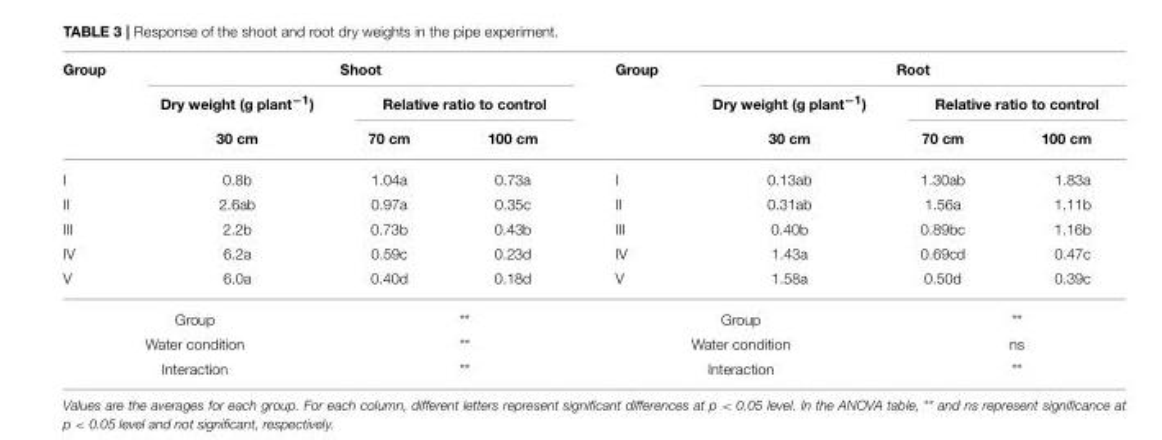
<table><thead><tr><td rowspan="3">Group</td><td colspan="3">Shoot</td><td rowspan="3">Group</td><td colspan="3">Root</td></tr><tr><td rowspan="2">Dry weight (g plant<sup>−1</sup>) 30 cm</td><td colspan="2">Relative ratio to control</td><td rowspan="2">Dry weight (g plant<sup>−1</sup>) 30 cm</td><td colspan="2">Relative ratio to control</td></tr><tr><td>70 cm</td><td>100 cm</td><td>70 cm</td><td>100 cm</td></tr></thead><tbody><tr><td>I</td><td>0.8b</td><td>1.04a</td><td>0.73a</td><td>I</td><td>0.13ab</td><td>1.30ab</td><td>1.83a</td></tr><tr><td>II</td><td>2.6ab</td><td>0.97a</td><td>0.35c</td><td>II</td><td>0.31ab</td><td>1.56a</td><td>1.11b</td></tr><tr><td>III</td><td>2.2b</td><td>0.73b</td><td>0.43b</td><td>III</td><td>0.40b</td><td>0.89bc</td><td>1.16b</td></tr><tr><td>IV</td><td>6.2a</td><td>0.59c</td><td>0.23d</td><td>IV</td><td>1.43a</td><td>0.69cd</td><td>0.47c</td></tr><tr><td>V</td><td>6.0a</td><td>0.40d</td><td>0.18d</td><td>V</td><td>1.58a</td><td>0.50d</td><td>0.39c</td></tr><tr><td colspan="2">Group</td><td colspan="2">**</td><td colspan="2">Group</td><td colspan="2">**</td></tr><tr><td colspan="2">Water condition</td><td colspan="2">**</td><td colspan="2">Water condition</td><td colspan="2">ns</td></tr><tr><td colspan="2">Interaction</td><td colspan="2">**</td><td colspan="2">Interaction</td><td colspan="2">**</td></tr></tbody></table>